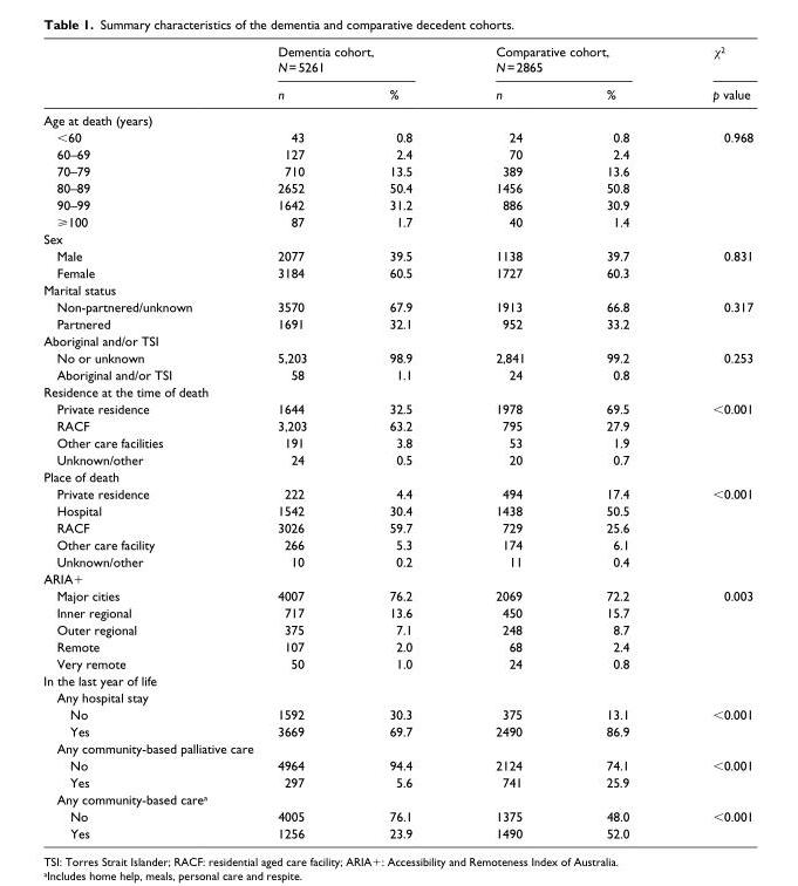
<table><thead><tr><td rowspan="2"></td><td colspan="2">Dementia cohort, N = 5261</td><td colspan="2">Comparative cohort, N = 2865</td><td rowspan="2">χ<sup>2</sup> p value</td></tr><tr><td>n</td><td>%</td><td>n</td><td>%</td></tr></thead><tbody><tr><td colspan="6">Age at death (years)</td></tr><tr><td>&lt;60</td><td>43</td><td>0.8</td><td>24</td><td>0.8</td><td>0.968</td></tr><tr><td>60–69</td><td>127</td><td>2.4</td><td>70</td><td>2.4</td><td></td></tr><tr><td>70–79</td><td>710</td><td>13.5</td><td>389</td><td>13.6</td><td></td></tr><tr><td>80–89</td><td>2652</td><td>50.4</td><td>1456</td><td>50.8</td><td></td></tr><tr><td>90–99</td><td>1642</td><td>31.2</td><td>886</td><td>30.9</td><td></td></tr><tr><td>⩾100</td><td>87</td><td>1.7</td><td>40</td><td>1.4</td><td></td></tr><tr><td colspan="6">Sex</td></tr><tr><td>Male</td><td>2077</td><td>39.5</td><td>1138</td><td>39.7</td><td>0.831</td></tr><tr><td>Female</td><td>3184</td><td>60.5</td><td>1727</td><td>60.3</td><td></td></tr><tr><td colspan="6">Marital status</td></tr><tr><td>Non-partnered/unknown</td><td>3570</td><td>67.9</td><td>1913</td><td>66.8</td><td>0.317</td></tr><tr><td>Partnered</td><td>1691</td><td>32.1</td><td>952</td><td>33.2</td><td></td></tr><tr><td colspan="6">Aboriginal and/or TSI</td></tr><tr><td>No or unknown</td><td>5,203</td><td>98.9</td><td>2,841</td><td>99.2</td><td>0.253</td></tr><tr><td>Aboriginal and/or TSI</td><td>58</td><td>1.1</td><td>24</td><td>0.8</td><td></td></tr><tr><td colspan="6">Residence at the time of death</td></tr><tr><td>Private residence</td><td>1644</td><td>32.5</td><td>1978</td><td>69.5</td><td>&lt;0.001</td></tr><tr><td>RACF</td><td>3,203</td><td>63.2</td><td>795</td><td>27.9</td><td></td></tr><tr><td>Other care facilities</td><td>191</td><td>3.8</td><td>53</td><td>1.9</td><td></td></tr><tr><td>Unknown/other</td><td>24</td><td>0.5</td><td>20</td><td>0.7</td><td></td></tr><tr><td colspan="6">Place of death</td></tr><tr><td>Private residence</td><td>222</td><td>4.4</td><td>494</td><td>17.4</td><td>&lt;0.001</td></tr><tr><td>Hospital</td><td>1542</td><td>30.4</td><td>1438</td><td>50.5</td><td></td></tr><tr><td>RACF</td><td>3026</td><td>59.7</td><td>729</td><td>25.6</td><td></td></tr><tr><td>Other care facility</td><td>266</td><td>5.3</td><td>174</td><td>6.1</td><td></td></tr><tr><td>Unknown/other</td><td>10</td><td>0.2</td><td>11</td><td>0.4</td><td></td></tr><tr><td colspan="6">ARIA+</td></tr><tr><td>Major cities</td><td>4007</td><td>76.2</td><td>2069</td><td>72.2</td><td>0.003</td></tr><tr><td>Inner regional</td><td>717</td><td>13.6</td><td>450</td><td>15.7</td><td></td></tr><tr><td>Outer regional</td><td>375</td><td>7.1</td><td>248</td><td>8.7</td><td></td></tr><tr><td>Remote</td><td>107</td><td>2.0</td><td>68</td><td>2.4</td><td></td></tr><tr><td>Very remote</td><td>50</td><td>1.0</td><td>24</td><td>0.8</td><td></td></tr><tr><td colspan="6">In the last year of life</td></tr><tr><td colspan="6">Any hospital stay</td></tr><tr><td>No</td><td>1592</td><td>30.3</td><td>375</td><td>13.1</td><td>&lt;0.001</td></tr><tr><td>Yes</td><td>3669</td><td>69.7</td><td>2490</td><td>86.9</td><td></td></tr><tr><td colspan="6">Any community-based palliative care</td></tr><tr><td>No</td><td>4964</td><td>94.4</td><td>2124</td><td>74.1</td><td>&lt;0.001</td></tr><tr><td>Yes</td><td>297</td><td>5.6</td><td>741</td><td>25.9</td><td></td></tr><tr><td colspan="6">Any community-based care<sup>a</sup></td></tr><tr><td>No</td><td>4005</td><td>76.1</td><td>1375</td><td>48.0</td><td>&lt;0.001</td></tr><tr><td>Yes</td><td>1256</td><td>23.9</td><td>1490</td><td>52.0</td><td></td></tr></tbody></table>